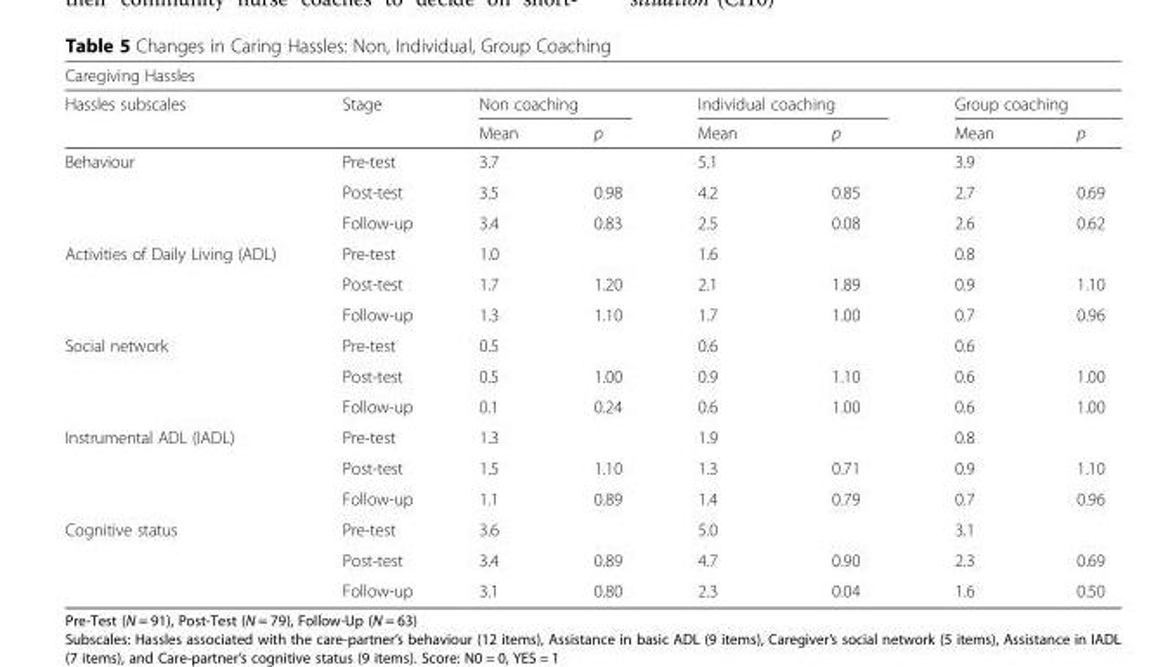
<table><thead><tr><td colspan="8">Caregiving Hassles</td></tr><tr><td rowspan="2">Hassles subscales</td><td rowspan="2">Stage</td><td colspan="2">Non coaching</td><td colspan="2">Individual coaching</td><td colspan="2">Group coaching</td></tr><tr><td>Mean</td><td>p</td><td>Mean</td><td>p</td><td>Mean</td><td>p</td></tr></thead><tbody><tr><td rowspan="3">Behaviour</td><td>Pre-test</td><td>3.7</td><td></td><td>5.1</td><td></td><td>3.9</td><td></td></tr><tr><td>Post-test</td><td>3.5</td><td>0.98</td><td>4.2</td><td>0.85</td><td>2.7</td><td>0.69</td></tr><tr><td>Follow-up</td><td>3.4</td><td>0.83</td><td>2.5</td><td>0.08</td><td>2.6</td><td>0.62</td></tr><tr><td rowspan="3">Activities of Daily Living (ADL)</td><td>Pre-test</td><td>1.0</td><td></td><td>1.6</td><td></td><td>0.8</td><td></td></tr><tr><td>Post-test</td><td>1.7</td><td>1.20</td><td>2.1</td><td>1.89</td><td>0.9</td><td>1.10</td></tr><tr><td>Follow-up</td><td>1.3</td><td>1.10</td><td>1.7</td><td>1.00</td><td>0.7</td><td>0.96</td></tr><tr><td rowspan="3">Social network</td><td>Pre-test</td><td>0.5</td><td></td><td>0.6</td><td></td><td>0.6</td><td></td></tr><tr><td>Post-test</td><td>0.5</td><td>1.00</td><td>0.9</td><td>1.10</td><td>0.6</td><td>1.00</td></tr><tr><td>Follow-up</td><td>0.1</td><td>0.24</td><td>0.6</td><td>1.00</td><td>0.6</td><td>1.00</td></tr><tr><td rowspan="3">Instrumental ADL (IADL)</td><td>Pre-test</td><td>1.3</td><td></td><td>1.9</td><td></td><td>0.8</td><td></td></tr><tr><td>Post-test</td><td>1.5</td><td>1.10</td><td>1.3</td><td>0.71</td><td>0.9</td><td>1.10</td></tr><tr><td>Follow-up</td><td>1.1</td><td>0.89</td><td>1.4</td><td>0.79</td><td>0.7</td><td>0.96</td></tr><tr><td rowspan="3">Cognitive status</td><td>Pre-test</td><td>3.6</td><td></td><td>5.0</td><td></td><td>3.1</td><td></td></tr><tr><td>Post-test</td><td>3.4</td><td>0.89</td><td>4.7</td><td>0.90</td><td>2.3</td><td>0.69</td></tr><tr><td>Follow-up</td><td>3.1</td><td>0.80</td><td>2.3</td><td>0.04</td><td>1.6</td><td>0.50</td></tr></tbody></table>